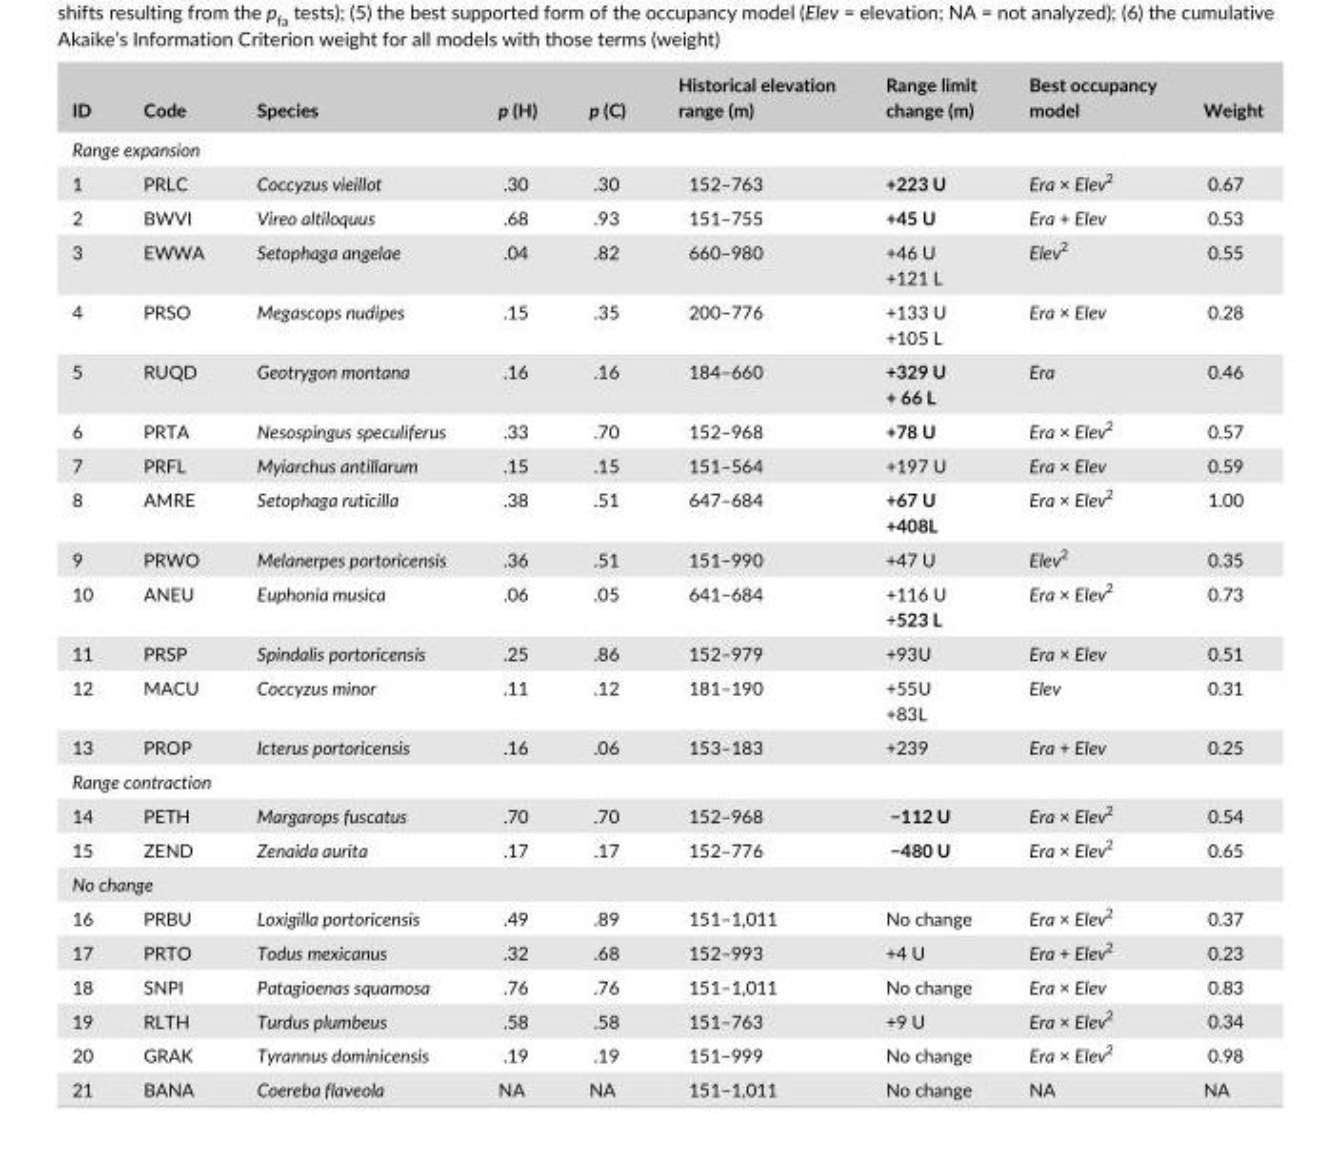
<table><thead><tr><td>ID</td><td>Code</td><td>Species</td><td>p (H)</td><td>p (C)</td><td>Historical elevation range (m)</td><td>Range limit change (m)</td><td>Best occupancy model</td><td>Weight</td></tr></thead><tbody><tr><td colspan="9">Range expansion</td></tr><tr><td>1</td><td>PRLC</td><td>Coccyzus vieillot</td><td>.30</td><td>.30</td><td>152–763</td><td>+223 U</td><td>Era × Elev<sup>2</sup></td><td>0.67</td></tr><tr><td>2</td><td>BWVI</td><td>Vireo altiloquus</td><td>.68</td><td>.93</td><td>151–755</td><td>+45 U</td><td>Era + Elev</td><td>0.53</td></tr><tr><td>3</td><td>EWWA</td><td>Setophaga angelae</td><td>.04</td><td>.82</td><td>660–980</td><td>+46 U +121 L</td><td>Elev<sup>2</sup></td><td>0.55</td></tr><tr><td>4</td><td>PRSO</td><td>Megascops nudipes</td><td>.15</td><td>.35</td><td>200–776</td><td>+133 U +105 L</td><td>Era × Elev</td><td>0.28</td></tr><tr><td>5</td><td>RUQD</td><td>Geotrygon montana</td><td>.16</td><td>.16</td><td>184–660</td><td>+329 U + 66 L</td><td>Era</td><td>0.46</td></tr><tr><td>6</td><td>PRTA</td><td>Nesospingus speculiferus</td><td>.33</td><td>.70</td><td>152–968</td><td>+78 U</td><td>Era × Elev<sup>2</sup></td><td>0.57</td></tr><tr><td>7</td><td>PRFL</td><td>Myiarchus antillarum</td><td>.15</td><td>.15</td><td>151–564</td><td>+197 U</td><td>Era × Elev</td><td>0.59</td></tr><tr><td>8</td><td>AMRE</td><td>Setophaga ruticilla</td><td>.38</td><td>.51</td><td>647–684</td><td>+67 U +408L</td><td>Era × Elev<sup>2</sup></td><td>1.00</td></tr><tr><td>9</td><td>PRWO</td><td>Melanerpes portoricensis</td><td>.36</td><td>.51</td><td>151–990</td><td>+47 U</td><td>Elev<sup>2</sup></td><td>0.35</td></tr><tr><td>10</td><td>ANEU</td><td>Euphonia musica</td><td>.06</td><td>.05</td><td>641–684</td><td>+116 U +523 L</td><td>Era × Elev<sup>2</sup></td><td>0.73</td></tr><tr><td>11</td><td>PRSP</td><td>Spindalis portoricensis</td><td>.25</td><td>.86</td><td>152–979</td><td>+93U</td><td>Era × Elev</td><td>0.51</td></tr><tr><td>12</td><td>MACU</td><td>Coccyzus minor</td><td>.11</td><td>.12</td><td>181–190</td><td>+55U +83L</td><td>Elev</td><td>0.31</td></tr><tr><td>13</td><td>PROP</td><td>Icterus portoricensis</td><td>.16</td><td>.06</td><td>153–183</td><td>+239</td><td>Era + Elev</td><td>0.25</td></tr><tr><td colspan="9">Range contraction</td></tr><tr><td>14</td><td>PETH</td><td>Margarops fuscatus</td><td>.70</td><td>.70</td><td>152–968</td><td>−112 U</td><td>Era × Elev<sup>2</sup></td><td>0.54</td></tr><tr><td>15</td><td>ZEND</td><td>Zenaida aurita</td><td>.17</td><td>.17</td><td>152–776</td><td>−480 U</td><td>Era × Elev<sup>2</sup></td><td>0.65</td></tr><tr><td colspan="9">No change</td></tr><tr><td>16</td><td>PRBU</td><td>Loxigilla portoricensis</td><td>.49</td><td>.89</td><td>151–1,011</td><td>No change</td><td>Era × Elev<sup>2</sup></td><td>0.37</td></tr><tr><td>17</td><td>PRTO</td><td>Todus mexicanus</td><td>.32</td><td>.68</td><td>152–993</td><td>+4 U</td><td>Era + Elev<sup>2</sup></td><td>0.23</td></tr><tr><td>18</td><td>SNPI</td><td>Patagioenas squamosa</td><td>.76</td><td>.76</td><td>151–1,011</td><td>No change</td><td>Era × Elev</td><td>0.83</td></tr><tr><td>19</td><td>RLTH</td><td>Turdus plumbeus</td><td>.58</td><td>.58</td><td>151–763</td><td>+9 U</td><td>Era × Elev<sup>2</sup></td><td>0.34</td></tr><tr><td>20</td><td>GRAK</td><td>Tyrannus dominicensis</td><td>.19</td><td>.19</td><td>151–999</td><td>No change</td><td>Era × Elev<sup>2</sup></td><td>0.98</td></tr><tr><td>21</td><td>BANA</td><td>Coereba flaveola</td><td>NA</td><td>NA</td><td>151–1,011</td><td>No change</td><td>NA</td><td>NA</td></tr></tbody></table>